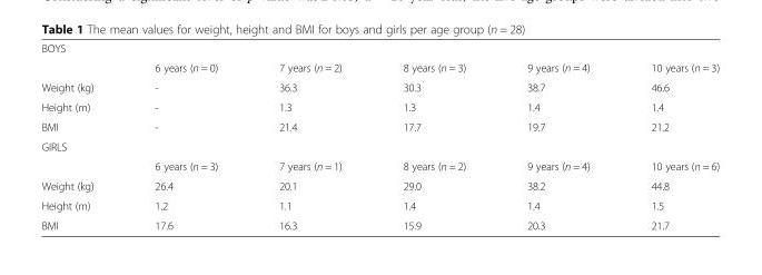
<table><tbody><tr><td colspan="6">BOYS</td></tr><tr><td></td><td>6 years (n = 0)</td><td>7 years (n = 2)</td><td>8 years (n = 3)</td><td>9 years (n = 4)</td><td>10 years (n = 3)</td></tr><tr><td>Weight (kg)</td><td>-</td><td>36.3</td><td>30.3</td><td>38.7</td><td>46.6</td></tr><tr><td>Height (m)</td><td>-</td><td>1.3</td><td>1.3</td><td>1.4</td><td>1.4</td></tr><tr><td>BMI</td><td>-</td><td>21.4</td><td>17.7</td><td>19.7</td><td>21.2</td></tr><tr><td colspan="6">GIRLS</td></tr><tr><td></td><td>6 years (n = 3)</td><td>7 years (n = 1)</td><td>8 years (n = 2)</td><td>9 years (n = 4)</td><td>10 years (n = 6)</td></tr><tr><td>Weight (kg)</td><td>26.4</td><td>20.1</td><td>29.0</td><td>38.2</td><td>44.8</td></tr><tr><td>Height (m)</td><td>1.2</td><td>1.1</td><td>1.4</td><td>1.4</td><td>1.5</td></tr><tr><td>BMI</td><td>17.6</td><td>16.3</td><td>15.9</td><td>20.3</td><td>21.7</td></tr></tbody></table>